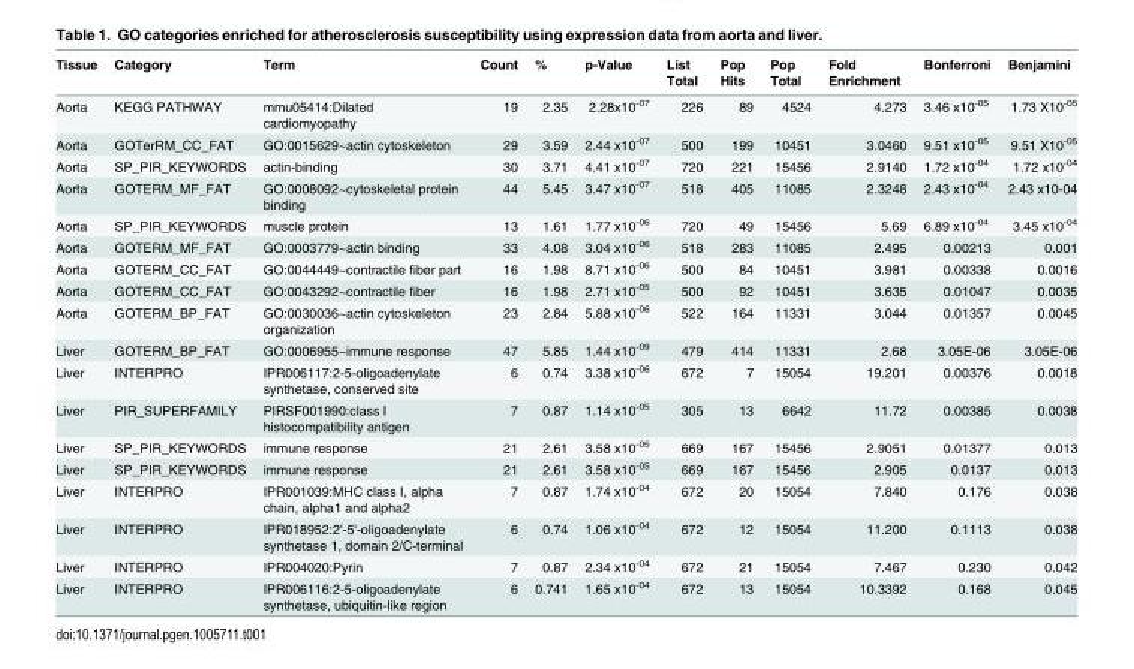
<table><thead><tr><td>Tissue</td><td>Category</td><td>Term</td><td>Count</td><td>%</td><td>p-Value</td><td>List Total</td><td>Pop Hits</td><td>Pop Total</td><td>Fold Enrichment</td><td>Bonferroni</td><td>Benjamini</td></tr></thead><tbody><tr><td>Aorta</td><td>KEGG PATHWAY</td><td>mmu05414:Dilated cardiomyopathy</td><td>19</td><td>2.35</td><td>2.28x10<sup>-07</sup></td><td>226</td><td>89</td><td>4524</td><td>4.273</td><td>3.46 x10<sup>-05</sup></td><td>1.73 X10<sup>-05</sup></td></tr><tr><td>Aorta</td><td>GOTerRM_CC_FAT</td><td>GO:0015629~actin cytoskeleton</td><td>29</td><td>3.59</td><td>2.44 x10<sup>-07</sup></td><td>500</td><td>199</td><td>10451</td><td>3.0460</td><td>9.51 x10<sup>-05</sup></td><td>9.51 X10<sup>-05</sup></td></tr><tr><td>Aorta</td><td>SP_PIR_KEYWORDS</td><td>actin-binding</td><td>30</td><td>3.71</td><td>4.41 x10<sup>-07</sup></td><td>720</td><td>221</td><td>15456</td><td>2.9140</td><td>1.72 x10<sup>-04</sup></td><td>1.72 x10<sup>-04</sup></td></tr><tr><td>Aorta</td><td>GOTERM_MF_FAT</td><td>GO:0008092~cytoskeletal protein binding</td><td>44</td><td>5.45</td><td>3.47 x10<sup>-07</sup></td><td>518</td><td>405</td><td>11085</td><td>2.3248</td><td>2.43 x10<sup>-04</sup></td><td>2.43 x10-04</td></tr><tr><td>Aorta</td><td>SP_PIR_KEYWORDS</td><td>muscle protein</td><td>13</td><td>1.61</td><td>1.77 x10<sup>-06</sup></td><td>720</td><td>49</td><td>15456</td><td>5.69</td><td>6.89 x10<sup>-04</sup></td><td>3.45 x10<sup>-04</sup></td></tr><tr><td>Aorta</td><td>GOTERM_MF_FAT</td><td>GO:0003779~actin binding</td><td>33</td><td>4.08</td><td>3.04 x10<sup>-06</sup></td><td>518</td><td>283</td><td>11085</td><td>2.495</td><td>0.00213</td><td>0.001</td></tr><tr><td>Aorta</td><td>GOTERM_CC_FAT</td><td>GO:0044449~contractile fiber part</td><td>16</td><td>1.98</td><td>8.71 x10<sup>-06</sup></td><td>500</td><td>84</td><td>10451</td><td>3.981</td><td>0.00338</td><td>0.0016</td></tr><tr><td>Aorta</td><td>GOTERM_CC_FAT</td><td>GO:0043292~contractile fiber</td><td>16</td><td>1.98</td><td>2.71 x10<sup>-05</sup></td><td>500</td><td>92</td><td>10451</td><td>3.635</td><td>0.01047</td><td>0.0035</td></tr><tr><td>Aorta</td><td>GOTERM_BP_FAT</td><td>GO:0030036~actin cytoskeleton organization</td><td>23</td><td>2.84</td><td>5.88 x10<sup>-06</sup></td><td>522</td><td>164</td><td>11331</td><td>3.044</td><td>0.01357</td><td>0.0045</td></tr><tr><td>Liver</td><td>GOTERM_BP_FAT</td><td>GO:0006955~immune response</td><td>47</td><td>5.85</td><td>1.44 x10<sup>-09</sup></td><td>479</td><td>414</td><td>11331</td><td>2.68</td><td>3.05E-06</td><td>3.05E-06</td></tr><tr><td>Liver</td><td>INTERPRO</td><td>IPR006117:2-5-oligoadenylate synthetase, conserved site</td><td>6</td><td>0.74</td><td>3.38 x10<sup>-06</sup></td><td>672</td><td>7</td><td>15054</td><td>19.201</td><td>0.00376</td><td>0.0018</td></tr><tr><td>Liver</td><td>PIR_SUPERFAMILY</td><td>PIRSF001990:class I histocompatibility antigen</td><td>7</td><td>0.87</td><td>1.14 x10<sup>-05</sup></td><td>305</td><td>13</td><td>6642</td><td>11.72</td><td>0.00385</td><td>0.0038</td></tr><tr><td>Liver</td><td>SP_PIR_KEYWORDS</td><td>immune response</td><td>21</td><td>2.61</td><td>3.58 x10<sup>-05</sup></td><td>669</td><td>167</td><td>15456</td><td>2.9051</td><td>0.01377</td><td>0.013</td></tr><tr><td>Liver</td><td>SP_PIR_KEYWORDS</td><td>immune response</td><td>21</td><td>2.61</td><td>3.58 x10<sup>-05</sup></td><td>669</td><td>167</td><td>15456</td><td>2.905</td><td>0.0137</td><td>0.013</td></tr><tr><td>Liver</td><td>INTERPRO</td><td>IPR001039:MHC class I, alpha chain, alpha1 and alpha2</td><td>7</td><td>0.87</td><td>1.74 x10<sup>-04</sup></td><td>672</td><td>20</td><td>15054</td><td>7.840</td><td>0.176</td><td>0.038</td></tr><tr><td>Liver</td><td>INTERPRO</td><td>IPR018952:2&#x27;-5&#x27;-oligoadenylate synthetase 1, domain 2/C-terminal</td><td>6</td><td>0.74</td><td>1.06 x10<sup>-04</sup></td><td>672</td><td>12</td><td>15054</td><td>11.200</td><td>0.1113</td><td>0.038</td></tr><tr><td>Liver</td><td>INTERPRO</td><td>IPR004020:Pyrin</td><td>7</td><td>0.87</td><td>2.34 x10<sup>-04</sup></td><td>672</td><td>21</td><td>15054</td><td>7.467</td><td>0.230</td><td>0.042</td></tr><tr><td>Liver</td><td>INTERPRO</td><td>IPR006116:2-5-oligoadenylate synthetase, ubiquitin-like region</td><td>6</td><td>0.741</td><td>1.65 x10<sup>-04</sup></td><td>672</td><td>13</td><td>15054</td><td>10.3392</td><td>0.168</td><td>0.045</td></tr></tbody></table>